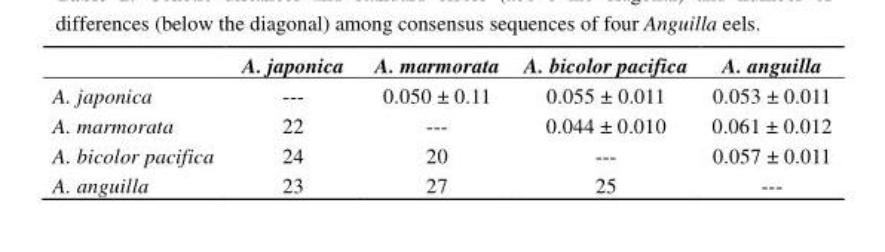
<table><thead><tr><td></td><td>A. japonica</td><td>A. marmorata</td><td>A. bicolor pacifica</td><td>A. anguilla</td></tr></thead><tbody><tr><td>A. japonica</td><td>---</td><td>0.050 ± 0.11</td><td>0.055 ± 0.011</td><td>0.053 ± 0.011</td></tr><tr><td>A. marmorata</td><td>22</td><td>---</td><td>0.044 ± 0.010</td><td>0.061 ± 0.012</td></tr><tr><td>A. bicolor pacifica</td><td>24</td><td>20</td><td>---</td><td>0.057 ± 0.011</td></tr><tr><td>A. anguilla</td><td>23</td><td>27</td><td>25</td><td>---</td></tr></tbody></table>